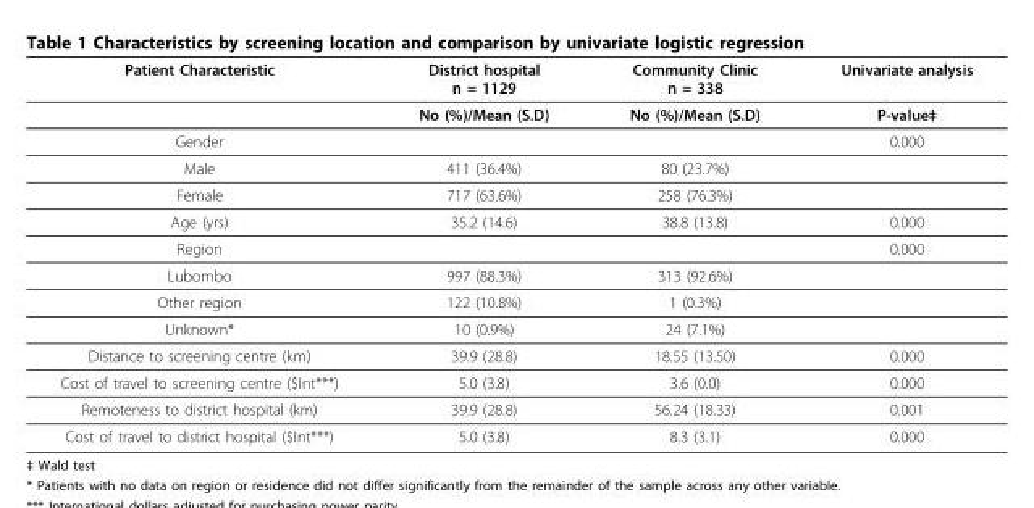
<table><thead><tr><td>Patient Characteristic</td><td>District hospital n = 1129</td><td>Community Clinic n = 338</td><td>Univariate analysis</td></tr></thead><tbody><tr><td></td><td>No (%)/Mean (S.D)</td><td>No (%)/Mean (S.D)</td><td>P-value‡</td></tr><tr><td>Gender</td><td></td><td></td><td>0.000</td></tr><tr><td>Male</td><td>411 (36.4%)</td><td>80 (23.7%)</td><td></td></tr><tr><td>Female</td><td>717 (63.6%)</td><td>258 (76.3%)</td><td></td></tr><tr><td>Age (yrs)</td><td>35.2 (14.6)</td><td>38.8 (13.8)</td><td>0.000</td></tr><tr><td>Region</td><td></td><td></td><td>0.000</td></tr><tr><td>Lubombo</td><td>997 (88.3%)</td><td>313 (92.6%)</td><td></td></tr><tr><td>Other region</td><td>122 (10.8%)</td><td>1 (0.3%)</td><td></td></tr><tr><td>Unknown*</td><td>10 (0.9%)</td><td>24 (7.1%)</td><td></td></tr><tr><td>Distance to screening centre (km)</td><td>39.9 (28.8)</td><td>18.55 (13.50)</td><td>0.000</td></tr><tr><td>Cost of travel to screening centre ($Int***)</td><td>5.0 (3.8)</td><td>3.6 (0.0)</td><td>0.000</td></tr><tr><td>Remoteness to district hospital (km)</td><td>39.9 (28.8)</td><td>56.24 (18.33)</td><td>0.001</td></tr><tr><td>Cost of travel to district hospital ($Int***)</td><td>5.0 (3.8)</td><td>8.3 (3.1)</td><td>0.000</td></tr></tbody></table>